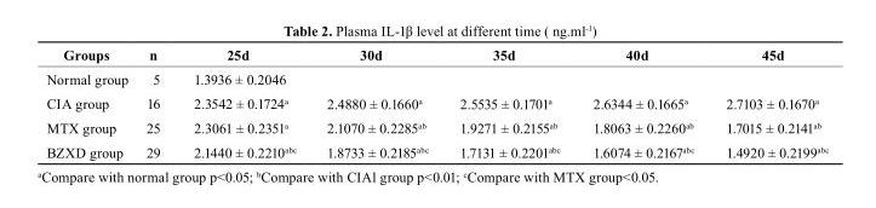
<table><thead><tr><td>Groups</td><td>n</td><td>25d</td><td>30d</td><td>35d</td><td>40d</td><td>45d</td></tr></thead><tbody><tr><td>Normal group</td><td>5</td><td>1.3936 ± 0.2046</td><td></td><td></td><td></td><td></td></tr><tr><td>CIA group</td><td>16</td><td>2.3542 ± 0.1724<sup>a</sup></td><td>2.4880 ± 0.1660<sup>a</sup></td><td>2.5535 ± 0.1701<sup>a</sup></td><td>2.6344 ± 0.1665<sup>a</sup></td><td>2.7103 ± 0.1670<sup>a</sup></td></tr><tr><td>MTX group</td><td>25</td><td>2.3061 ± 0.2351<sup>a</sup></td><td>2.1070 ± 0.2285<sup>ab</sup></td><td>1.9271 ± 0.2155<sup>ab</sup></td><td>1.8063 ± 0.2260<sup>ab</sup></td><td>1.7015 ± 0.2141<sup>ab</sup></td></tr><tr><td>BZXD group</td><td>29</td><td>2.1440 ± 0.2210<sup>abc</sup></td><td>1.8733 ± 0.2185<sup>abc</sup></td><td>1.7131 ± 0.2201<sup>abc</sup></td><td>1.6074 ± 0.2167<sup>abc</sup></td><td>1.4920 ± 0.2199<sup>abc</sup></td></tr></tbody></table>